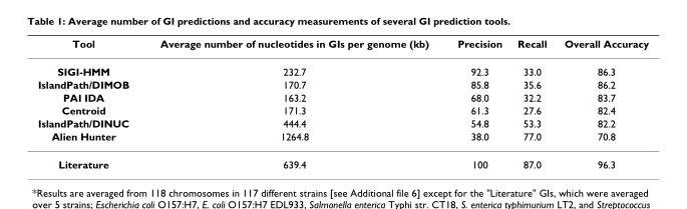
<table><thead><tr><td>Tool</td><td>Average number of nucleotides in GIs per genome (kb)</td><td>Precision</td><td>Recall</td><td>Overall Accuracy</td></tr></thead><tbody><tr><td>SIGI-HMM</td><td>232.7</td><td>92.3</td><td>33.0</td><td>86.3</td></tr><tr><td>IslandPath/DIMOB</td><td>170.7</td><td>85.8</td><td>35.6</td><td>86.2</td></tr><tr><td>PAI IDA</td><td>163.2</td><td>68.0</td><td>32.2</td><td>83.7</td></tr><tr><td>Centroid</td><td>171.3</td><td>61.3</td><td>27.6</td><td>82.4</td></tr><tr><td>IslandPath/DINUC</td><td>444.4</td><td>54.8</td><td>53.3</td><td>82.2</td></tr><tr><td>Alien Hunter</td><td>1264.8</td><td>38.0</td><td>77.0</td><td>70.8</td></tr><tr><td>Literature</td><td>639.4</td><td>100</td><td>87.0</td><td>96.3</td></tr></tbody></table>